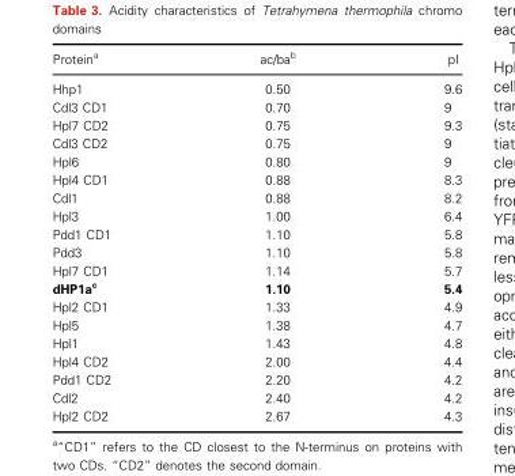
<table><thead><tr><td>Protein<sup>a</sup></td><td>ac/ba<sup>b</sup></td><td>pI</td></tr></thead><tbody><tr><td>Hhp1</td><td>0.50</td><td>9.6</td></tr><tr><td>Cdl3 CD1</td><td>0.70</td><td>9</td></tr><tr><td>Hpl7 CD2</td><td>0.75</td><td>9.3</td></tr><tr><td>Cdl3 CD2</td><td>0.75</td><td>9</td></tr><tr><td>Hpl6</td><td>0.80</td><td>9</td></tr><tr><td>Hpl4 CD1</td><td>0.88</td><td>8.3</td></tr><tr><td>Cdl1</td><td>0.88</td><td>8.2</td></tr><tr><td>Hpl3</td><td>1.00</td><td>6.4</td></tr><tr><td>Pdd1 CD1</td><td>1.10</td><td>5.8</td></tr><tr><td>Pdd3</td><td>1.10</td><td>5.8</td></tr><tr><td>Hpl7 CD1</td><td>1.14</td><td>5.7</td></tr><tr><td>dHP1ac</td><td>1.10</td><td>5.4</td></tr><tr><td>Hpl2 CD1</td><td>1.33</td><td>4.9</td></tr><tr><td>Hpl5</td><td>1.38</td><td>4.7</td></tr><tr><td>Hpl1</td><td>1.43</td><td>4.8</td></tr><tr><td>Hpl4 CD2</td><td>2.00</td><td>4.4</td></tr><tr><td>Pdd1 CD2</td><td>2.20</td><td>4.2</td></tr><tr><td>Cdl2</td><td>2.40</td><td>4.2</td></tr><tr><td>Hpl2 CD2</td><td>2.67</td><td>4.3</td></tr></tbody></table>